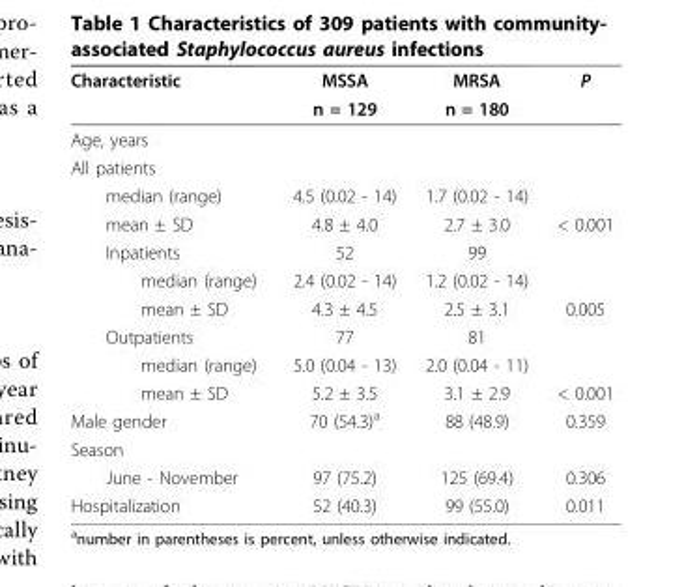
<table><thead><tr><td rowspan="2">Characteristic</td><td rowspan="2">MSSA n = 129</td><td rowspan="2">MRSA n = 180</td><td rowspan="2">P</td></tr><tr></tr></thead><tbody><tr><td colspan="4">Age, years</td></tr><tr><td colspan="4">All patients</td></tr><tr><td>median (range)</td><td>4.5 (0.02 - 14)</td><td>1.7 (0.02 - 14)</td><td></td></tr><tr><td>mean ± SD</td><td>4.8 ± 4.0</td><td>2.7 ± 3.0</td><td>&lt; 0.001</td></tr><tr><td>Inpatients</td><td>52</td><td>99</td><td></td></tr><tr><td>median (range)</td><td>2.4 (0.02 - 14)</td><td>1.2 (0.02 - 14)</td><td></td></tr><tr><td>mean ± SD</td><td>4.3 ± 4.5</td><td>2.5 ± 3.1</td><td>0.005</td></tr><tr><td>Outpatients</td><td>77</td><td>81</td><td></td></tr><tr><td>median (range)</td><td>5.0 (0.04 - 13)</td><td>2.0 (0.04 - 11)</td><td></td></tr><tr><td>mean ± SD</td><td>5.2 ± 3.5</td><td>3.1 ± 2.9</td><td>&lt; 0.001</td></tr><tr><td>Male gender</td><td>70 (54.3)<sup>a</sup></td><td>88 (48.9)</td><td>0.359</td></tr><tr><td colspan="4">Season</td></tr><tr><td>June - November</td><td>97 (75.2)</td><td>125 (69.4)</td><td>0.306</td></tr><tr><td>Hospitalization</td><td>52 (40.3)</td><td>99 (55.0)</td><td>0.011</td></tr></tbody></table>